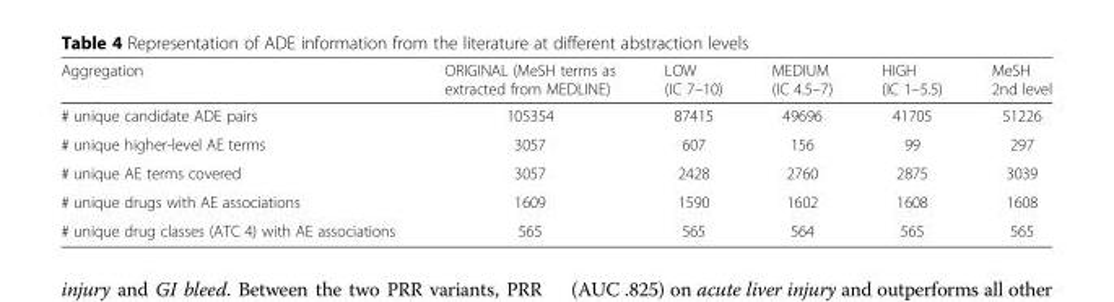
<table><thead><tr><td>Aggregation</td><td>ORIGINAL (MeSH terms as extracted from MEDLINE)</td><td>LOW (IC 7–10)</td><td>MEDIUM (IC 4.5–7)</td><td>HIGH (IC 1–5.5)</td><td>MeSH 2nd level</td></tr></thead><tbody><tr><td># unique candidate ADE pairs</td><td>105354</td><td>87415</td><td>49696</td><td>41705</td><td>51226</td></tr><tr><td># unique higher-level AE terms</td><td>3057</td><td>607</td><td>156</td><td>99</td><td>297</td></tr><tr><td># unique AE terms covered</td><td>3057</td><td>2428</td><td>2760</td><td>2875</td><td>3039</td></tr><tr><td># unique drugs with AE associations</td><td>1609</td><td>1590</td><td>1602</td><td>1608</td><td>1608</td></tr><tr><td># unique drug classes (ATC 4) with AE associations</td><td>565</td><td>565</td><td>564</td><td>565</td><td>565</td></tr></tbody></table>